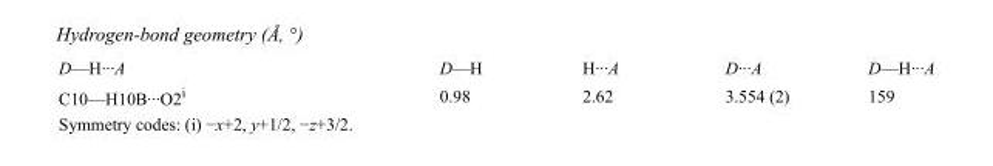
<table><tbody><tr><td>D—H···A</td><td>D—H</td><td>H···A</td><td>D···A</td><td>D—H···A</td></tr><tr><td>C10—H10B···O2<sup>i</sup></td><td>0.98</td><td>2.62</td><td>3.554 (2)</td><td>159</td></tr></tbody></table>